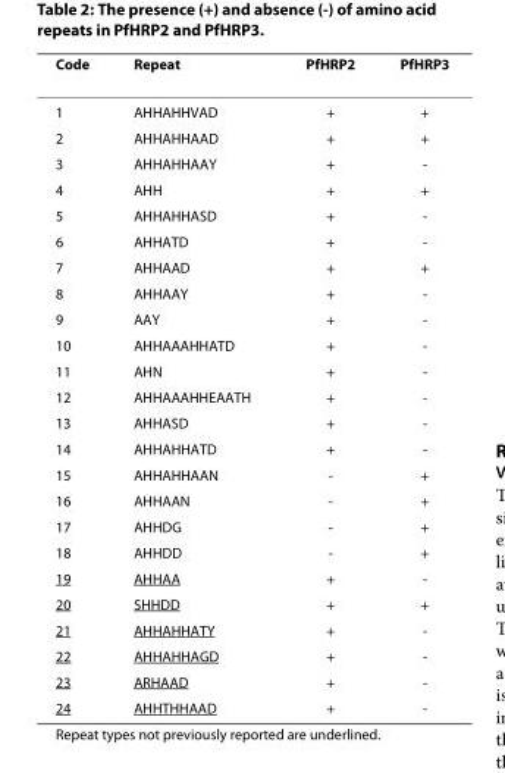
<table><thead><tr><td>Code</td><td>Repeat</td><td>PfHRP2</td><td>PfHRP3</td></tr></thead><tbody><tr><td>1</td><td>AHHAHHVAD</td><td>+</td><td>+</td></tr><tr><td>2</td><td>AHHAHHAAD</td><td>+</td><td>+</td></tr><tr><td>3</td><td>AHHAHHAAY</td><td>+</td><td>-</td></tr><tr><td>4</td><td>AHH</td><td>+</td><td>+</td></tr><tr><td>5</td><td>AHHAHHASD</td><td>+</td><td>-</td></tr><tr><td>6</td><td>AHHATD</td><td>+</td><td>-</td></tr><tr><td>7</td><td>AHHAAD</td><td>+</td><td>+</td></tr><tr><td>8</td><td>AHHAAY</td><td>+</td><td>-</td></tr><tr><td>9</td><td>AAY</td><td>+</td><td>-</td></tr><tr><td>10</td><td>AHHAAAHHATD</td><td>+</td><td>-</td></tr><tr><td>11</td><td>AHN</td><td>+</td><td>-</td></tr><tr><td>12</td><td>AHHAAAHHEAATH</td><td>+</td><td>-</td></tr><tr><td>13</td><td>AHHASD</td><td>+</td><td>-</td></tr><tr><td>14</td><td>AHHAHHATD</td><td>+</td><td>-</td></tr><tr><td>15</td><td>AHHAHHAAN</td><td>-</td><td>+</td></tr><tr><td>16</td><td>AHHAAN</td><td>-</td><td>+</td></tr><tr><td>17</td><td>AHHDG</td><td>-</td><td>+</td></tr><tr><td>18</td><td>AHHDD</td><td>-</td><td>+</td></tr><tr><td>19</td><td>AHHAA</td><td>+</td><td>-</td></tr><tr><td>20</td><td>SHHDD</td><td>+</td><td>+</td></tr><tr><td>21</td><td>AHHAHHATY</td><td>+</td><td>-</td></tr><tr><td>22</td><td>AHHAHHAGD</td><td>+</td><td>-</td></tr><tr><td>23</td><td>ARHAAD</td><td>+</td><td>-</td></tr><tr><td>24</td><td>AHHTHHAAD</td><td>+</td><td>-</td></tr></tbody></table>